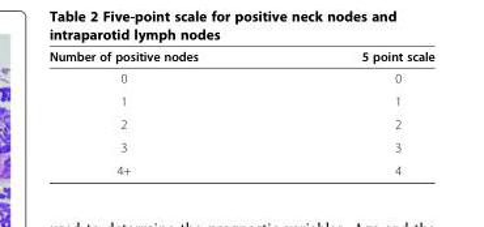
<table><thead><tr><td>Number of positive nodes</td><td>5 point scale</td></tr></thead><tbody><tr><td>0</td><td>0</td></tr><tr><td>1</td><td>1</td></tr><tr><td>2</td><td>2</td></tr><tr><td>3</td><td>3</td></tr><tr><td>4+</td><td>4</td></tr></tbody></table>